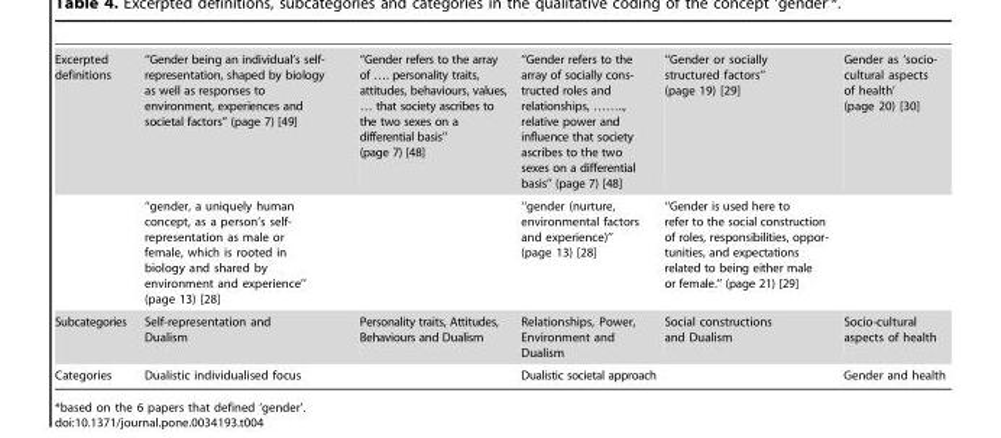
<table><tbody><tr><td rowspan="2">Excerpted definitions</td><td>‘‘Gender being an individual’s self- representation, shaped by biology as well as responses to environment, experiences and societal factors’’ (page 7) [49]</td><td>‘‘Gender refers to the array of …. personality traits, attitudes, behaviours, values, … that society ascribes to the two sexes on a differential basis’’ (page 7) [48]</td><td>‘‘Gender refers to the array of socially cons- tructed roles and relationships, …….., relative power and influence that society ascribes to the two sexes on a differential basis’’ (page 7) [48]</td><td>‘‘Gender or socially structured factors’’ (page 19) [29]</td><td>Gender as ‘socio- cultural aspects of health’ (page 20) [30]</td></tr><tr><td>‘‘gender, a uniquely human concept, as a person’s self- representation as male or female, which is rooted in biology and shared by environment and experience’’ (page 13) [28]</td><td></td><td>‘‘gender (nurture, environmental factors and experience)’’ (page 13) [28]</td><td>‘‘Gender is used here to refer to the social construction of roles, responsibilities, oppor- tunities, and expectations related to being either male or female.’’ (page 21) [29]</td><td></td></tr><tr><td>Subcategories</td><td>Self-representation and Dualism</td><td>Personality traits, Attitudes, Behaviours and Dualism</td><td>Relationships, Power, Environment and Dualism</td><td>Social constructions and Dualism</td><td>Socio-cultural aspects of health</td></tr><tr><td>Categories</td><td colspan="2">Dualistic individualised focus</td><td colspan="2">Dualistic societal approach</td><td>Gender and health</td></tr></tbody></table>